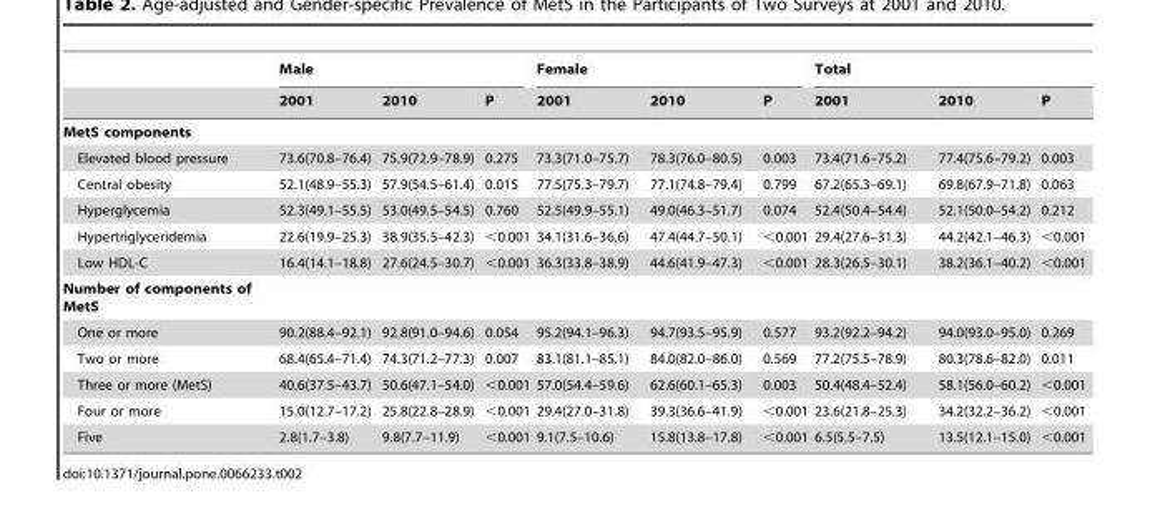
<table><thead><tr><td rowspan="2"></td><td colspan="3">Male</td><td colspan="3">Female</td><td colspan="3">Total</td></tr><tr><td>2001</td><td>2010</td><td>P</td><td>2001</td><td>2010</td><td>P</td><td>2001</td><td>2010</td><td>P</td></tr></thead><tbody><tr><td colspan="10">MetS components</td></tr><tr><td>Elevated blood pressure</td><td>73.6(70.8–76.4)</td><td>75.9(72.9–78.9)</td><td>0.275</td><td>73.3(71.0–75.7)</td><td>78.3(76.0–80.5)</td><td>0.003</td><td>73.4(71.6–75.2)</td><td>77.4(75.6–79.2)</td><td>0.003</td></tr><tr><td>Central obesity</td><td>52.1(48.9–55.3)</td><td>57.9(54.5–61.4)</td><td>0.015</td><td>77.5(75.3–79.7)</td><td>77.1(74.8–79.4)</td><td>0.799</td><td>67.2(65.3–69.1)</td><td>69.8(67.9–71.8)</td><td>0.063</td></tr><tr><td>Hyperglycemia</td><td>52.3(49.1–55.5)</td><td>53.0(49.5–54.5)</td><td>0.760</td><td>52.5(49.9–55.1)</td><td>49.0(46.3–51.7)</td><td>0.074</td><td>52.4(50.4–54.4)</td><td>52.1(50.0–54.2)</td><td>0.212</td></tr><tr><td>Hypertriglyceridemia</td><td>22.6(19.9–25.3)</td><td>38.9(35.5–42.3)</td><td>&lt;0.001</td><td>34.1(31.6–36.6)</td><td>47.4(44.7–50.1)</td><td>&lt;0.001</td><td>29.4(27.6–31.3)</td><td>44.2(42.1–46.3)</td><td>&lt;0.001</td></tr><tr><td>Low HDL-C</td><td>16.4(14.1–18.8)</td><td>27.6(24.5–30.7)</td><td>&lt;0.001</td><td>36.3(33.8–38.9)</td><td>44.6(41.9–47.3)</td><td>&lt;0.001</td><td>28.3(26.5–30.1)</td><td>38.2(36.1–40.2)</td><td>&lt;0.001</td></tr><tr><td colspan="10">Number of components of MetS</td></tr><tr><td>One or more</td><td>90.2(88.4–92.1)</td><td>92.8(91.0–94.6)</td><td>0.054</td><td>95.2(94.1–96.3)</td><td>94.7(93.5–95.9)</td><td>0.577</td><td>93.2(92.2–94.2)</td><td>94.0(93.0–95.0)</td><td>0.269</td></tr><tr><td>Two or more</td><td>68.4(65.4–71.4)</td><td>74.3(71.2–77.3)</td><td>0.007</td><td>83.1(81.1–85.1)</td><td>84.0(82.0–86.0)</td><td>0.569</td><td>77.2(75.5–78.9)</td><td>80.3(78.6–82.0)</td><td>0.011</td></tr><tr><td>Three or more (MetS)</td><td>40.6(37.5–43.7)</td><td>50.6(47.1–54.0)</td><td>&lt;0.001</td><td>57.0(54.4–59.6)</td><td>62.6(60.1–65.3)</td><td>0.003</td><td>50.4(48.4–52.4)</td><td>58.1(56.0–60.2)</td><td>&lt;0.001</td></tr><tr><td>Four or more</td><td>15.0(12.7–17.2)</td><td>25.8(22.8–28.9)</td><td>&lt;0.001</td><td>29.4(27.0–31.8)</td><td>39.3(36.6–41.9)</td><td>&lt;0.001</td><td>23.6(21.8–25.3)</td><td>34.2(32.2–36.2)</td><td>&lt;0.001</td></tr><tr><td>Five</td><td>2.8(1.7–3.8)</td><td>9.8(7.7–11.9)</td><td>&lt;0.001</td><td>9.1(7.5–10.6)</td><td>15.8(13.8–17.8)</td><td>&lt;0.001</td><td>6.5(5.5–7.5)</td><td>13.5(12.1–15.0)</td><td>&lt;0.001</td></tr></tbody></table>